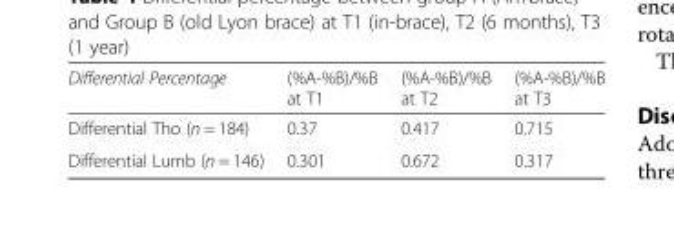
<table><thead><tr><td>Differential Percentage</td><td>(%A-%B)/%B at T1</td><td>(%A-%B)/%B at T2</td><td>(%A-%B)/%B at T3</td></tr></thead><tbody><tr><td>Differential Tho (n = 184)</td><td>0.37</td><td>0.417</td><td>0.715</td></tr><tr><td>Differential Lumb (n = 146)</td><td>0.301</td><td>0.672</td><td>0.317</td></tr></tbody></table>